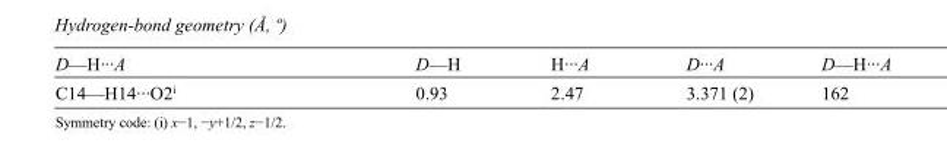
<table><tbody><tr><td>D—H···A</td><td>D—H</td><td>H···A</td><td>D···A</td><td>D—H···A</td></tr><tr><td>C14—H14···O2<sup>i</sup></td><td>0.93</td><td>2.47</td><td>3.371 (2)</td><td>162</td></tr></tbody></table>